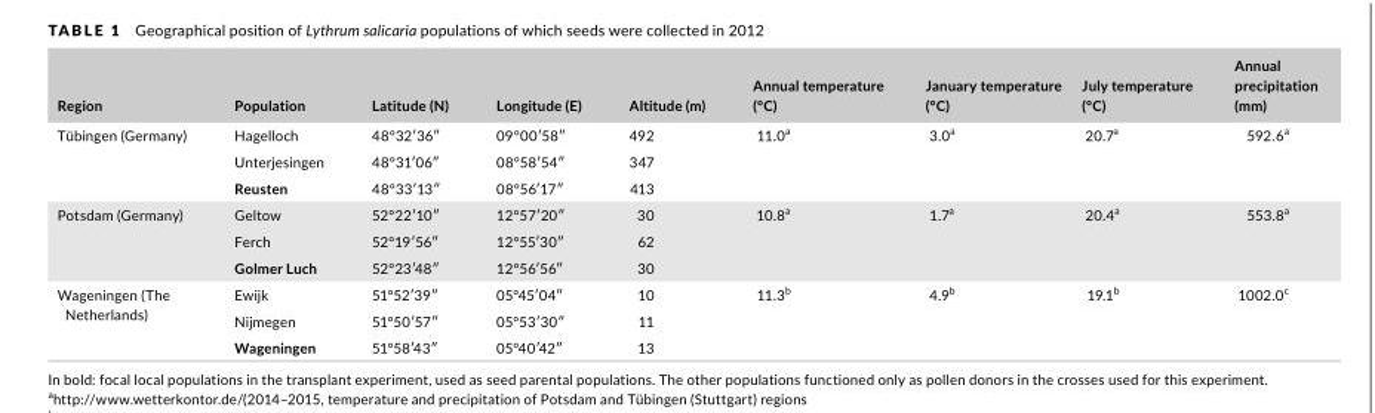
<table><thead><tr><td>Region</td><td>Population</td><td>Latitude (N)</td><td>Longitude (E)</td><td>Altitude (m)</td><td>Annual temperature (°C)</td><td>January temperature (°C)</td><td>July temperature (°C)</td><td>Annual precipitation (mm)</td></tr></thead><tbody><tr><td rowspan="3">Tübingen (Germany)</td><td>Hagelloch</td><td>48°32′36″</td><td>09°00′58″</td><td>492</td><td rowspan="3">11.0<sup>a</sup></td><td rowspan="3">3.0<sup>a</sup></td><td rowspan="3">20.7<sup>a</sup></td><td rowspan="3">592.6<sup>a</sup></td></tr><tr><td>Unterjesingen</td><td>48°31′06″</td><td>08°58′54″</td><td>347</td></tr><tr><td>Reusten</td><td>48°33′13″</td><td>08°56′17″</td><td>413</td></tr><tr><td rowspan="3">Potsdam (Germany)</td><td>Geltow</td><td>52°22′10″</td><td>12°57′20″</td><td>30</td><td rowspan="3">10.8<sup>a</sup></td><td rowspan="3">1.7<sup>a</sup></td><td rowspan="3">20.4<sup>a</sup></td><td rowspan="3">553.8<sup>a</sup></td></tr><tr><td>Ferch</td><td>52°19′56″</td><td>12°55′30″</td><td>62</td></tr><tr><td>Golmer Luch</td><td>52°23′48″</td><td>12°56′56″</td><td>30</td></tr><tr><td rowspan="3">Wageningen (The Netherlands)</td><td>Ewijk</td><td>51°52′39″</td><td>05°45′04″</td><td>10</td><td rowspan="3">11.3<sup>b</sup></td><td rowspan="3">4.9<sup>b</sup></td><td rowspan="3">19.1<sup>b</sup></td><td rowspan="3">1002.0<sup>c</sup></td></tr><tr><td>Nijmegen</td><td>51°50′57″</td><td>05°53′30″</td><td>11</td></tr><tr><td>Wageningen</td><td>51°58′43″</td><td>05°40′42″</td><td>13</td></tr></tbody></table>